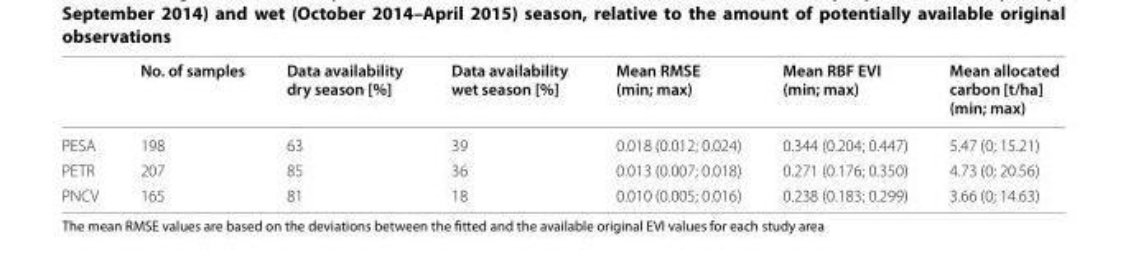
<table><thead><tr><td></td><td>No. of samples</td><td>Data availability dry season [%]</td><td>Data availability wet season [%]</td><td>Mean RMSE (min; max)</td><td>Mean RBF EVI (min; max)</td><td>Mean allocated carbon [t/ha] (min; max)</td></tr></thead><tbody><tr><td>PESA</td><td>198</td><td>63</td><td>39</td><td>0.018 (0.012; 0.024)</td><td>0.344 (0.204; 0.447)</td><td>5.47 (0; 15.21)</td></tr><tr><td>PETR</td><td>207</td><td>85</td><td>36</td><td>0.013 (0.007; 0.018)</td><td>0.271 (0.176; 0.350)</td><td>4.73 (0; 20.56)</td></tr><tr><td>PNCV</td><td>165</td><td>81</td><td>18</td><td>0.010 (0.005; 0.016)</td><td>0.238 (0.183; 0.299)</td><td>3.66 (0; 14.63)</td></tr></tbody></table>